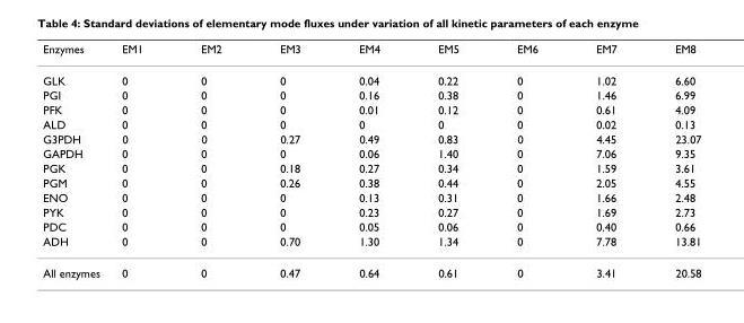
<table><thead><tr><td>Enzymes</td><td>EM1</td><td>EM2</td><td>EM3</td><td>EM4</td><td>EM5</td><td>EM6</td><td>EM7</td><td>EM8</td></tr></thead><tbody><tr><td>GLK</td><td>0</td><td>0</td><td>0</td><td>0.04</td><td>0.22</td><td>0</td><td>1.02</td><td>6.60</td></tr><tr><td>PGI</td><td>0</td><td>0</td><td>0</td><td>0.16</td><td>0.38</td><td>0</td><td>1.46</td><td>6.99</td></tr><tr><td>PFK</td><td>0</td><td>0</td><td>0</td><td>0.01</td><td>0.12</td><td>0</td><td>0.61</td><td>4.09</td></tr><tr><td>ALD</td><td>0</td><td>0</td><td>0</td><td>0</td><td>0</td><td>0</td><td>0.02</td><td>0.13</td></tr><tr><td>G3PDH</td><td>0</td><td>0</td><td>0.27</td><td>0.49</td><td>0.83</td><td>0</td><td>4.45</td><td>23.07</td></tr><tr><td>GAPDH</td><td>0</td><td>0</td><td>0</td><td>0.06</td><td>1.40</td><td>0</td><td>7.06</td><td>9.35</td></tr><tr><td>PGK</td><td>0</td><td>0</td><td>0.18</td><td>0.27</td><td>0.34</td><td>0</td><td>1.59</td><td>3.61</td></tr><tr><td>PGM</td><td>0</td><td>0</td><td>0.26</td><td>0.38</td><td>0.44</td><td>0</td><td>2.05</td><td>4.55</td></tr><tr><td>ENO</td><td>0</td><td>0</td><td>0</td><td>0.13</td><td>0.31</td><td>0</td><td>1.66</td><td>2.48</td></tr><tr><td>PYK</td><td>0</td><td>0</td><td>0</td><td>0.23</td><td>0.27</td><td>0</td><td>1.69</td><td>2.73</td></tr><tr><td>PDC</td><td>0</td><td>0</td><td>0</td><td>0.05</td><td>0.06</td><td>0</td><td>0.40</td><td>0.66</td></tr><tr><td>ADH</td><td>0</td><td>0</td><td>0.70</td><td>1.30</td><td>1.34</td><td>0</td><td>7.78</td><td>13.81</td></tr><tr><td>All enzymes</td><td>0</td><td>0</td><td>0.47</td><td>0.64</td><td>0.61</td><td>0</td><td>3.41</td><td>20.58</td></tr></tbody></table>